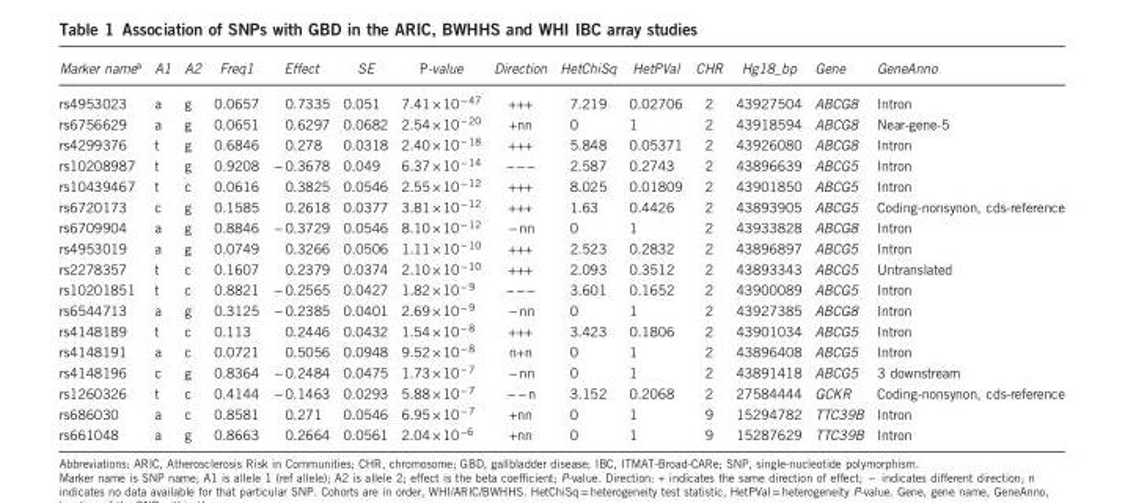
<table><thead><tr><td>Marker name<sup>a</sup></td><td>A1</td><td>A2</td><td>Freq1</td><td>Effect</td><td>SE</td><td>P-value</td><td>Direction</td><td>HetChiSq</td><td>HetPVal</td><td>CHR</td><td>Hg18_bp</td><td>Gene</td><td>GeneAnno</td></tr></thead><tbody><tr><td>rs4953023</td><td>a</td><td>g</td><td>0.0657</td><td>0.7335</td><td>0.051</td><td>7.41× 10<sup>− 47</sup></td><td>+++</td><td>7.219</td><td>0.02706</td><td>2</td><td>43927504</td><td>ABCG8</td><td>Intron</td></tr><tr><td>rs6756629</td><td>a</td><td>g</td><td>0.0651</td><td>0.6297</td><td>0.0682</td><td>2.54× 10<sup>− 20</sup></td><td>+nn</td><td>0</td><td>1</td><td>2</td><td>43918594</td><td>ABCG8</td><td>Near-gene-5</td></tr><tr><td>rs4299376</td><td>t</td><td>g</td><td>0.6846</td><td>0.278</td><td>0.0318</td><td>2.40× 10<sup>− 18</sup></td><td>+++</td><td>5.848</td><td>0.05371</td><td>2</td><td>43926080</td><td>ABCG8</td><td>Intron</td></tr><tr><td>rs10208987</td><td>t</td><td>g</td><td>0.9208</td><td>− 0.3678</td><td>0.049</td><td>6.37× 10<sup>− 14</sup></td><td>− − −</td><td>2.587</td><td>0.2743</td><td>2</td><td>43896639</td><td>ABCG5</td><td>Intron</td></tr><tr><td>rs10439467</td><td>t</td><td>c</td><td>0.0616</td><td>0.3825</td><td>0.0546</td><td>2.55× 10<sup>− 12</sup></td><td>+++</td><td>8.025</td><td>0.01809</td><td>2</td><td>43901850</td><td>ABCG5</td><td>Intron</td></tr><tr><td>rs6720173</td><td>c</td><td>g</td><td>0.1585</td><td>0.2618</td><td>0.0377</td><td>3.81× 10<sup>− 12</sup></td><td>+++</td><td>1.63</td><td>0.4426</td><td>2</td><td>43893905</td><td>ABCG5</td><td>Coding-nonsynon, cds-reference</td></tr><tr><td>rs6709904</td><td>a</td><td>g</td><td>0.8846</td><td>− 0.3729</td><td>0.0546</td><td>8.10× 10<sup>− 12</sup></td><td>− nn</td><td>0</td><td>1</td><td>2</td><td>43933828</td><td>ABCG8</td><td>Intron</td></tr><tr><td>rs4953019</td><td>a</td><td>g</td><td>0.0749</td><td>0.3266</td><td>0.0506</td><td>1.11× 10<sup>− 10</sup></td><td>+++</td><td>2.523</td><td>0.2832</td><td>2</td><td>43896897</td><td>ABCG5</td><td>Intron</td></tr><tr><td>rs2278357</td><td>t</td><td>c</td><td>0.1607</td><td>0.2379</td><td>0.0374</td><td>2.10× 10<sup>− 10</sup></td><td>+++</td><td>2.093</td><td>0.3512</td><td>2</td><td>43893343</td><td>ABCG5</td><td>Untranslated</td></tr><tr><td>rs10201851</td><td>t</td><td>c</td><td>0.8821</td><td>− 0.2565</td><td>0.0427</td><td>1.82× 10<sup>− 9</sup></td><td>− − −</td><td>3.601</td><td>0.1652</td><td>2</td><td>43900089</td><td>ABCG5</td><td>Intron</td></tr><tr><td>rs6544713</td><td>a</td><td>g</td><td>0.3125</td><td>− 0.2385</td><td>0.0401</td><td>2.69× 10<sup>− 9</sup></td><td>− nn</td><td>0</td><td>1</td><td>2</td><td>43927385</td><td>ABCG8</td><td>Intron</td></tr><tr><td>rs4148189</td><td>t</td><td>c</td><td>0.113</td><td>0.2446</td><td>0.0432</td><td>1.54× 10<sup>− 8</sup></td><td>+++</td><td>3.423</td><td>0.1806</td><td>2</td><td>43901034</td><td>ABCG5</td><td>Intron</td></tr><tr><td>rs4148191</td><td>a</td><td>c</td><td>0.0721</td><td>0.5056</td><td>0.0948</td><td>9.52× 10<sup>− 8</sup></td><td>n+n</td><td>0</td><td>1</td><td>2</td><td>43896408</td><td>ABCG5</td><td>Intron</td></tr><tr><td>rs4148196</td><td>c</td><td>g</td><td>0.8364</td><td>− 0.2484</td><td>0.0475</td><td>1.73× 10<sup>− 7</sup></td><td>− nn</td><td>0</td><td>1</td><td>2</td><td>43891418</td><td>ABCG5</td><td>3 downstream</td></tr><tr><td>rs1260326</td><td>t</td><td>c</td><td>0.4144</td><td>− 0.1463</td><td>0.0293</td><td>5.88× 10<sup>− 7</sup></td><td>− − n</td><td>3.152</td><td>0.2068</td><td>2</td><td>27584444</td><td>GCKR</td><td>Coding-nonsynon, cds-reference</td></tr><tr><td>rs686030</td><td>a</td><td>c</td><td>0.8581</td><td>0.271</td><td>0.0546</td><td>6.95× 10<sup>− 7</sup></td><td>+nn</td><td>0</td><td>1</td><td>9</td><td>15294782</td><td>TTC39B</td><td>Intron</td></tr><tr><td>rs661048</td><td>a</td><td>g</td><td>0.8663</td><td>0.2664</td><td>0.0561</td><td>2.04× 10<sup>−6</sup></td><td>+nn</td><td>0</td><td>1</td><td>9</td><td>15287629</td><td>TTC39B</td><td>Intron</td></tr></tbody></table>